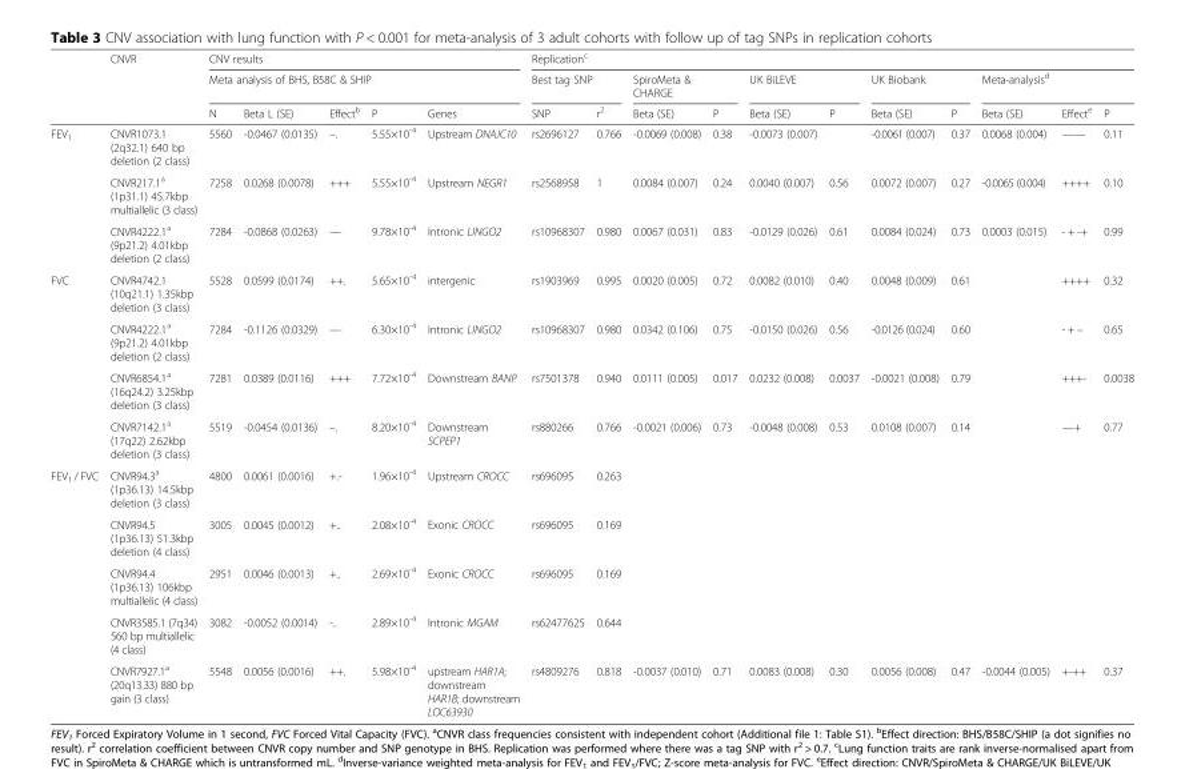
<table><thead><tr><td rowspan="3"></td><td rowspan="3">CNVR</td><td rowspan="2" colspan="5">CNV results Meta analysis of BHS, B58C &amp; SHIP</td><td colspan="11">Replication<sup>c</sup></td></tr><tr><td colspan="2">Best tag SNP</td><td colspan="2">SpiroMeta &amp; CHARGE</td><td colspan="2">UK BiLEVE</td><td colspan="2">UK Biobank</td><td colspan="3">Meta-analysis<sup>d</sup></td></tr><tr><td>N</td><td>Beta L (SE)</td><td>Effect<sup>b</sup></td><td>P</td><td>Genes</td><td>SNP</td><td>r<sup>2</sup></td><td>Beta (SE)</td><td>P</td><td>Beta (SE)</td><td>P</td><td>Beta (SE)</td><td>P</td><td>Beta (SE)</td><td>Effect<sup>e</sup></td><td>P</td></tr></thead><tbody><tr><td rowspan="3">FEV<sub>1</sub></td><td>CNVR1073.1 (2q32.1) 640 bp deletion (2 class)</td><td>5560</td><td>-0.0467 (0.0135)</td><td>–.</td><td>5.55×10<sup>-4</sup></td><td>Upstream DNAJC10</td><td>rs2696127</td><td>0.766</td><td>-0.0069 (0.008)</td><td>0.38</td><td>-0.0073 (0.007)</td><td></td><td>-0.0061 (0.007)</td><td>0.37</td><td>0.0068 (0.004)</td><td>——</td><td>0.11</td></tr><tr><td>CNVR217.1<sup>a</sup> (1p31.1) 45.7kbp multiallelic (3 class)</td><td>7258</td><td>0.0268 (0.0078)</td><td>+++</td><td>5.55×10<sup>-4</sup></td><td>Upstream NEGR1</td><td>rs2568958</td><td>1</td><td>0.0084 (0.007)</td><td>0.24</td><td>0.0040 (0.007)</td><td>0.56</td><td>0.0072 (0.007)</td><td>0.27</td><td>-0.0065 (0.004)</td><td>++++</td><td>0.10</td></tr><tr><td>CNVR4222.1<sup>a</sup> (9p21.2) 4.01kbp deletion (2 class)</td><td>7284</td><td>-0.0868 (0.0263)</td><td>—</td><td>9.78×10<sup>-4</sup></td><td>Intronic LINGO2</td><td>rs10968307</td><td>0.980</td><td>0.0067 (0.031)</td><td>0.83</td><td>-0.0129 (0.026)</td><td>0.61</td><td>0.0084 (0.024)</td><td>0.73</td><td>0.0003 (0.015)</td><td>- + -+</td><td>0.99</td></tr><tr><td rowspan="4">FVC</td><td>CNVR4742.1 (10q21.1) 1.35kbp deletion (3 class)</td><td>5528</td><td>0.0599 (0.0174)</td><td>++.</td><td>5.65×10<sup>-4</sup></td><td>intergenic</td><td>rs1903969</td><td>0.995</td><td>0.0020 (0.005)</td><td>0.72</td><td>0.0082 (0.010)</td><td>0.40</td><td>0.0048 (0.009)</td><td>0.61</td><td></td><td>++++</td><td>0.32</td></tr><tr><td>CNVR4222.1<sup>a</sup> (9p21.2) 4.01kbp deletion (2 class)</td><td>7284</td><td>-0.1126 (0.0329)</td><td>—</td><td>6.30×10<sup>-4</sup></td><td>Intronic LINGO2</td><td>rs10968307</td><td>0.980</td><td>0.0342 (0.106)</td><td>0.75</td><td>-0.0150 (0.026)</td><td>0.56</td><td>-0.0126 (0.024)</td><td>0.60</td><td></td><td>- + –</td><td>0.65</td></tr><tr><td>CNVR6854.1<sup>a</sup> (16q24.2) 3.25kbp deletion (3 class)</td><td>7281</td><td>0.0389 (0.0116)</td><td>+++</td><td>7.72×10<sup>-4</sup></td><td>Downstream BANP</td><td>rs7501378</td><td>0.940</td><td>0.0111 (0.005)</td><td>0.017</td><td>0.0232 (0.008)</td><td>0.0037</td><td>-0.0021 (0.008)</td><td>0.79</td><td></td><td>+++-</td><td>0.0038</td></tr><tr><td>CNVR7142.1<sup>a</sup> (17q22) 2.62kbp deletion (3 class)</td><td>5519</td><td>-0.0454 (0.0136)</td><td>–.</td><td>8.20×10<sup>-4</sup></td><td>Downstream SCPEP1</td><td>rs880266</td><td>0.766</td><td>-0.0021 (0.006)</td><td>0.73</td><td>-0.0048 (0.008)</td><td>0.53</td><td>0.0108 (0.007)</td><td>0.14</td><td></td><td>—+</td><td>0.77</td></tr><tr><td rowspan="5">FEV<sub>1</sub> / FVC</td><td>CNVR94.3<sup>a</sup> (1p36.13) 14.5kbp deletion (3 class)</td><td>4800</td><td>0.0061 (0.0016)</td><td>+.-</td><td>1.96×10<sup>-4</sup></td><td>Upstream CROCC</td><td>rs696095</td><td>0.263</td><td></td><td></td><td></td><td></td><td></td><td></td><td></td><td></td><td></td></tr><tr><td>CNVR94.5 (1p36.13) 51.3kbp deletion (4 class)</td><td>3005</td><td>0.0045 (0.0012)</td><td>+..</td><td>2.08×10<sup>-4</sup></td><td>Exonic CROCC</td><td>rs696095</td><td>0.169</td><td></td><td></td><td></td><td></td><td></td><td></td><td></td><td></td><td></td></tr><tr><td>CNVR94.4 (1p36.13) 106kbp multiallelic (4 class)</td><td>2951</td><td>0.0046 (0.0013)</td><td>+..</td><td>2.69×10<sup>-4</sup></td><td>Exonic CROCC</td><td>rs696095</td><td>0.169</td><td></td><td></td><td></td><td></td><td></td><td></td><td></td><td></td><td></td></tr><tr><td>CNVR3585.1 (7q34) 560 bp multiallelic (4 class)</td><td>3082</td><td>-0.0052 (0.0014)</td><td>-..</td><td>2.89×10<sup>-4</sup></td><td>Intronic MGAM</td><td>rs62477625</td><td>0.644</td><td></td><td></td><td></td><td></td><td></td><td></td><td></td><td></td><td></td></tr><tr><td>CNVR7927.1<sup>a</sup> (20q13.33) 880 bp gain (3 class)</td><td>5548</td><td>0.0056 (0.0016)</td><td>++.</td><td>5.98×10<sup>-4</sup></td><td>upstream HAR1A; downstream HAR1B; downstream LOC63930</td><td>rs4809276</td><td>0.818</td><td>-0.0037 (0.010)</td><td>0.71</td><td>0.0083 (0.008)</td><td>0.30</td><td>0.0056 (0.008)</td><td>0.47</td><td>-0.0044 (0.005)</td><td>+-++</td><td>0.37</td></tr></tbody></table>